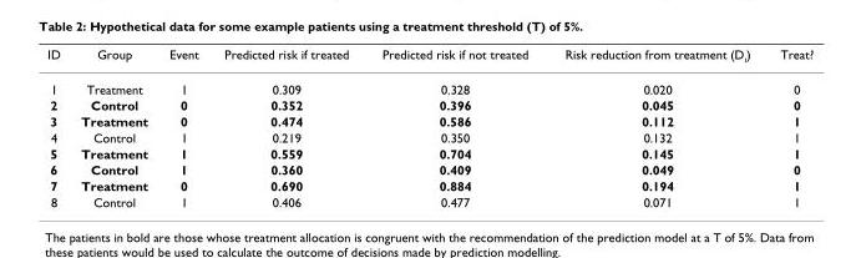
<table><thead><tr><td>ID</td><td>Group</td><td>Event</td><td>Predicted risk if treated</td><td>Predicted risk if not treated</td><td>Risk reduction from treatment (D<sub>i</sub>)</td><td>Treat?</td></tr></thead><tbody><tr><td>1</td><td>Treatment</td><td>1</td><td>0.309</td><td>0.328</td><td>0.020</td><td>0</td></tr><tr><td>2</td><td>Control</td><td>0</td><td>0.352</td><td>0.396</td><td>0.045</td><td>0</td></tr><tr><td>3</td><td>Treatment</td><td>0</td><td>0.474</td><td>0.586</td><td>0.112</td><td>1</td></tr><tr><td>4</td><td>Control</td><td>1</td><td>0.219</td><td>0.350</td><td>0.132</td><td>1</td></tr><tr><td>5</td><td>Treatment</td><td>1</td><td>0.559</td><td>0.704</td><td>0.145</td><td>1</td></tr><tr><td>6</td><td>Control</td><td>1</td><td>0.360</td><td>0.409</td><td>0.049</td><td>0</td></tr><tr><td>7</td><td>Treatment</td><td>0</td><td>0.690</td><td>0.884</td><td>0.194</td><td>1</td></tr><tr><td>8</td><td>Control</td><td>1</td><td>0.406</td><td>0.477</td><td>0.071</td><td>1</td></tr></tbody></table>